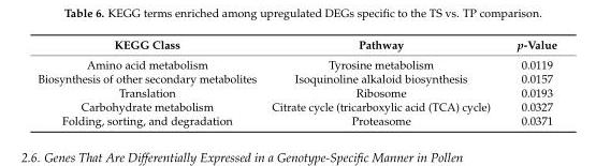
<table><thead><tr><td>KEGG Class</td><td>Pathway</td><td>p-Value</td></tr></thead><tbody><tr><td>Amino acid metabolism</td><td>Tyrosine metabolism</td><td>0.0119</td></tr><tr><td>Biosynthesis of other secondary metabolites</td><td>Isoquinoline alkaloid biosynthesis</td><td>0.0157</td></tr><tr><td>Translation</td><td>Ribosome</td><td>0.0193</td></tr><tr><td>Carbohydrate metabolism</td><td>Citrate cycle (tricarboxylic acid (TCA) cycle)</td><td>0.0327</td></tr><tr><td>Folding, sorting, and degradation</td><td>Proteasome</td><td>0.0371</td></tr></tbody></table>